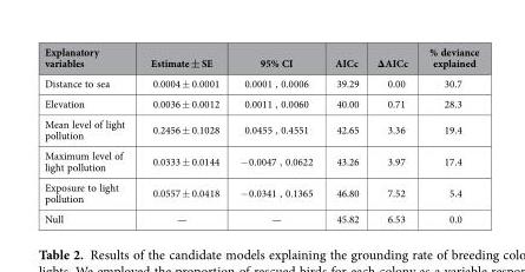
<table><thead><tr><td>Explanatory variables</td><td>Estimate ± SE</td><td>95% CI</td><td>AICc</td><td>ΔAICc</td><td>% deviance explained</td></tr></thead><tbody><tr><td>Distance to sea</td><td>0.0004 ± 0.0001</td><td>0.0001 , 0.0006</td><td>39.29</td><td>0.00</td><td>30.7</td></tr><tr><td>Elevation</td><td>0.0036 ± 0.0012</td><td>0.0011 , 0.0060</td><td>40.00</td><td>0.71</td><td>28.3</td></tr><tr><td>Mean level of light pollution</td><td>0.2456 ± 0.1028</td><td>0.0455 , 0.4551</td><td>42.65</td><td>3.36</td><td>19.4</td></tr><tr><td>Maximum level of light pollution</td><td>0.0333 ± 0.0144</td><td>− 0.0047 , 0.0622</td><td>43.26</td><td>3.97</td><td>17.4</td></tr><tr><td>Exposure to light pollution</td><td>0.0557 ± 0.0418</td><td>− 0.0341 , 0.1365</td><td>46.80</td><td>7.52</td><td>5.4</td></tr><tr><td>Null</td><td>—</td><td>—</td><td>45.82</td><td>6.53</td><td>0.0</td></tr></tbody></table>